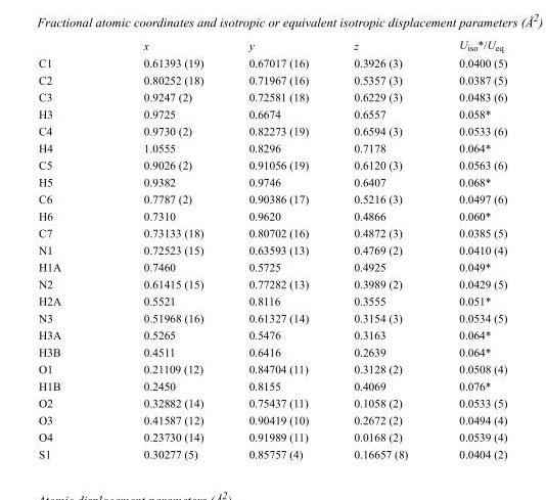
<table><thead><tr><td></td><td>x</td><td>y</td><td>z</td><td>U<sub>iso</sub>*/U<sub>eq</sub></td></tr></thead><tbody><tr><td>C1</td><td>0.61393 (19)</td><td>0.67017 (16)</td><td>0.3926 (3)</td><td>0.0400 (5)</td></tr><tr><td>C2</td><td>0.80252 (18)</td><td>0.71967 (16)</td><td>0.5357 (3)</td><td>0.0387 (5)</td></tr><tr><td>C3</td><td>0.9247 (2)</td><td>0.72581 (18)</td><td>0.6229 (3)</td><td>0.0483 (6)</td></tr><tr><td>H3</td><td>0.9725</td><td>0.6674</td><td>0.6557</td><td>0.058*</td></tr><tr><td>C4</td><td>0.9730 (2)</td><td>0.82273 (19)</td><td>0.6594 (3)</td><td>0.0533 (6)</td></tr><tr><td>H4</td><td>1.0555</td><td>0.8296</td><td>0.7178</td><td>0.064*</td></tr><tr><td>C5</td><td>0.9026 (2)</td><td>0.91056 (19)</td><td>0.6120 (3)</td><td>0.0563 (6)</td></tr><tr><td>H5</td><td>0.9382</td><td>0.9746</td><td>0.6407</td><td>0.068*</td></tr><tr><td>C6</td><td>0.7787 (2)</td><td>0.90386 (17)</td><td>0.5216 (3)</td><td>0.0497 (6)</td></tr><tr><td>H6</td><td>0.7310</td><td>0.9620</td><td>0.4866</td><td>0.060*</td></tr><tr><td>C7</td><td>0.73133 (18)</td><td>0.80702 (16)</td><td>0.4872 (3)</td><td>0.0385 (5)</td></tr><tr><td>N1</td><td>0.72523 (15)</td><td>0.63593 (13)</td><td>0.4769 (2)</td><td>0.0410 (4)</td></tr><tr><td>H1A</td><td>0.7460</td><td>0.5725</td><td>0.4925</td><td>0.049*</td></tr><tr><td>N2</td><td>0.61415 (15)</td><td>0.77282 (13)</td><td>0.3989 (2)</td><td>0.0429 (5)</td></tr><tr><td>H2A</td><td>0.5521</td><td>0.8116</td><td>0.3555</td><td>0.051*</td></tr><tr><td>N3</td><td>0.51968 (16)</td><td>0.61327 (14)</td><td>0.3154 (3)</td><td>0.0534 (5)</td></tr><tr><td>H3A</td><td>0.5265</td><td>0.5476</td><td>0.3163</td><td>0.064*</td></tr><tr><td>H3B</td><td>0.4511</td><td>0.6416</td><td>0.2639</td><td>0.064*</td></tr><tr><td>O1</td><td>0.21109 (12)</td><td>0.84704 (11)</td><td>0.3128 (2)</td><td>0.0508 (4)</td></tr><tr><td>H1B</td><td>0.2450</td><td>0.8155</td><td>0.4069</td><td>0.076*</td></tr><tr><td>O2</td><td>0.32882 (14)</td><td>0.75437 (11)</td><td>0.1058 (2)</td><td>0.0533 (5)</td></tr><tr><td>O3</td><td>0.41587 (12)</td><td>0.90419 (10)</td><td>0.2672 (2)</td><td>0.0494 (4)</td></tr><tr><td>O4</td><td>0.23730 (14)</td><td>0.91989 (11)</td><td>0.0168 (2)</td><td>0.0539 (4)</td></tr><tr><td>S1</td><td>0.30277 (5)</td><td>0.85757 (4)</td><td>0.16657 (8)</td><td>0.0404 (2)</td></tr></tbody></table>